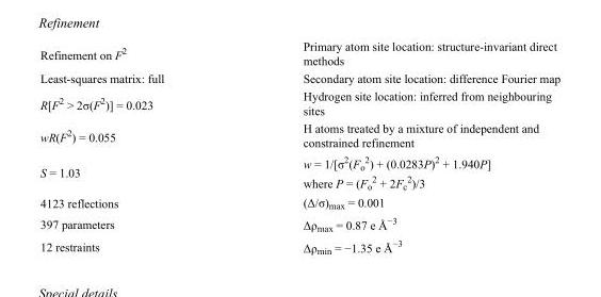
<table><tbody><tr><td>Refinement on F<sup>2</sup></td><td>Primary atom site location: structure-invariant direct methods</td></tr><tr><td>Least-squares matrix: full</td><td>Secondary atom site location: difference Fourier map</td></tr><tr><td>R[F<sup>2</sup> &gt; 2σ(F<sup>2</sup>)] = 0.023</td><td>Hydrogen site location: inferred from neighbouring sites</td></tr><tr><td>wR(F<sup>2</sup>) = 0.055</td><td>H atoms treated by a mixture of independent and constrained refinement</td></tr><tr><td>S = 1.03</td><td>w = 1/[σ<sup>2</sup>(F<sub>o</sub> <sup>2</sup>) + (0.0283P)<sup>2</sup> + 1.940P] where P = (F<sub>o</sub> <sup>2</sup> + 2F<sub>c</sub> <sup>2</sup>)/3</td></tr><tr><td>4123 reflections</td><td>(Δ/σ)<sub>max</sub> = 0.001</td></tr><tr><td>397 parameters</td><td>Δρ<sub>max</sub> = 0.87 e Å<sup>−3</sup></td></tr><tr><td>12 restraints</td><td>Δρ<sub>min</sub> = −1.35 e Å<sup>−3</sup></td></tr></tbody></table>